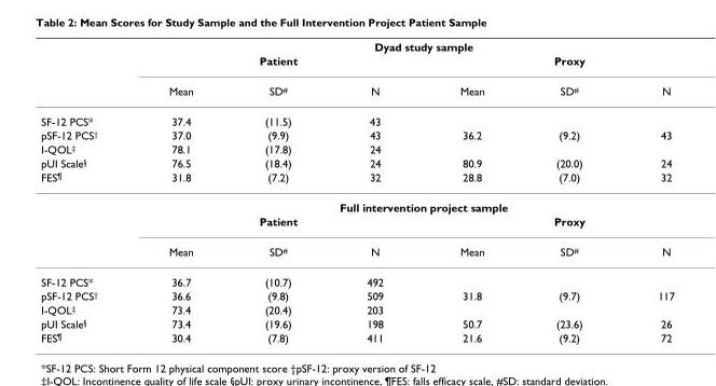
<table><thead><tr><td rowspan="3"></td><td colspan="6">Dyad study sample</td></tr><tr><td colspan="3">Patient</td><td colspan="3">Proxy</td></tr><tr><td>Mean</td><td>SD<sup>#</sup></td><td>N</td><td>Mean</td><td>SD<sup>#</sup></td><td>N</td></tr></thead><tbody><tr><td>SF-12 PCS*</td><td>37.4</td><td>(11.5)</td><td>43</td><td></td><td></td><td></td></tr><tr><td>pSF-12 PCS<sup>†</sup></td><td>37.0</td><td>(9.9)</td><td>43</td><td>36.2</td><td>(9.2)</td><td>43</td></tr><tr><td>I-QOL<sup>‡</sup></td><td>78.1</td><td>(17.8)</td><td>24</td><td></td><td></td><td></td></tr><tr><td>pUI Scale<sup>§</sup></td><td>76.5</td><td>(18.4)</td><td>24</td><td>80.9</td><td>(20.0)</td><td>24</td></tr><tr><td rowspan="4">FES<sup>¶</sup></td><td>31.8</td><td>(7.2)</td><td>32</td><td>28.8</td><td>(7.0)</td><td>32</td></tr><tr><td colspan="6">Full intervention project sample</td></tr><tr><td colspan="3">Patient</td><td colspan="3">Proxy</td></tr><tr><td>Mean</td><td>SD<sup>#</sup></td><td>N</td><td>Mean</td><td>SD<sup>#</sup></td><td>N</td></tr><tr><td>SF-12 PCS*</td><td>36.7</td><td>(10.7)</td><td>492</td><td></td><td></td><td></td></tr><tr><td>pSF-12 PCS<sup>†</sup></td><td>36.6</td><td>(9.8)</td><td>509</td><td>31.8</td><td>(9.7)</td><td>117</td></tr><tr><td>I-QOL<sup>‡</sup></td><td>73.4</td><td>(20.4)</td><td>203</td><td></td><td></td><td></td></tr><tr><td>pUI Scale<sup>§</sup></td><td>73.4</td><td>(19.6)</td><td>198</td><td>50.7</td><td>(23.6)</td><td>26</td></tr><tr><td>FES<sup>¶</sup></td><td>30.4</td><td>(7.8)</td><td>411</td><td>21.6</td><td>(9.2)</td><td>72</td></tr></tbody></table>